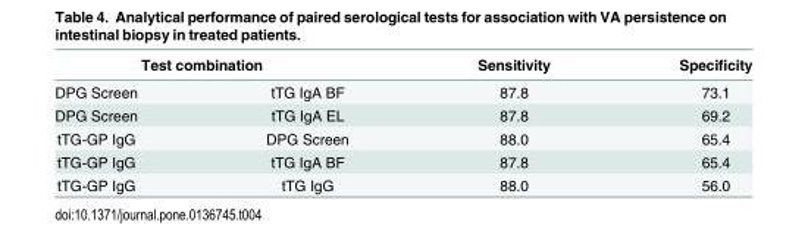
<table><thead><tr><td colspan="2">Test combination</td><td rowspan="2">Sensitivity 87.8</td><td rowspan="2">Specificity 73.1</td></tr><tr><td>DPG Screen</td><td>tTG IgA BF</td></tr></thead><tbody><tr><td>DPG Screen</td><td>tTG IgA EL</td><td>87.8</td><td>69.2</td></tr><tr><td>tTG-GP IgG</td><td>DPG Screen</td><td>88.0</td><td>65.4</td></tr><tr><td>tTG-GP IgG</td><td>tTG IgA BF</td><td>87.8</td><td>65.4</td></tr><tr><td>tTG-GP IgG</td><td>tTG IgG</td><td>88.0</td><td>56.0</td></tr></tbody></table>